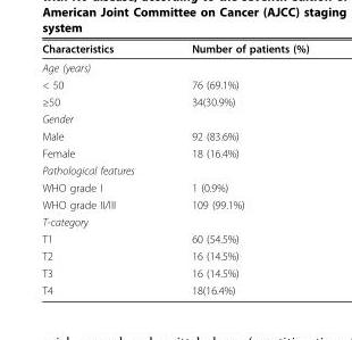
<table><tbody><tr><td>Characteristics</td><td>Number of patients (%)</td></tr><tr><td colspan="2">Age (years)</td></tr><tr><td>&lt; 50</td><td>76 (69.1%)</td></tr><tr><td>≥50</td><td>34(30.9%)</td></tr><tr><td colspan="2">Gender</td></tr><tr><td>Male</td><td>92 (83.6%)</td></tr><tr><td>Female</td><td>18 (16.4%)</td></tr><tr><td colspan="2">Pathological features</td></tr><tr><td>WHO grade I</td><td>1 (0.9%)</td></tr><tr><td>WHO grade II/III</td><td>109 (99.1%)</td></tr><tr><td colspan="2">T-category</td></tr><tr><td>T1</td><td>60 (54.5%)</td></tr><tr><td>T2</td><td>16 (14.5%)</td></tr><tr><td>T3</td><td>16 (14.5%)</td></tr><tr><td>T4</td><td>18(16.4%)</td></tr></tbody></table>